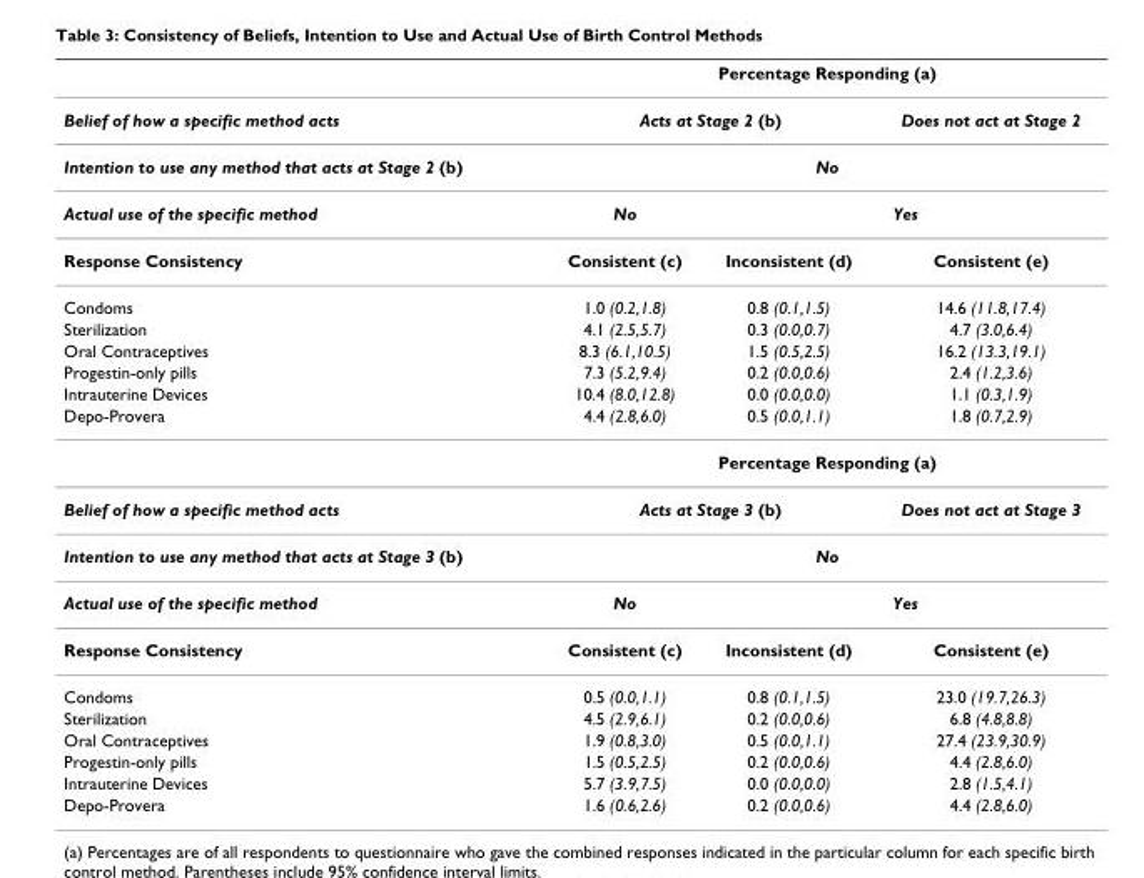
<table><thead><tr><td></td><td colspan="3">Percentage Responding (a)</td></tr></thead><tbody><tr><td>Belief of how a specific method acts</td><td colspan="2">Acts at Stage 2 (b)</td><td>Does not act at Stage 2</td></tr><tr><td>Intention to use any method that acts at Stage 2 (b)</td><td colspan="3">No</td></tr><tr><td>Actual use of the specific method</td><td>No</td><td colspan="2">Yes</td></tr><tr><td>Response Consistency</td><td>Consistent (c)</td><td>Inconsistent (d)</td><td>Consistent (e)</td></tr><tr><td>Condoms</td><td>1.0 (0.2,1.8)</td><td>0.8 (0.1,1.5)</td><td>14.6 (11.8,17.4)</td></tr><tr><td>Sterilization</td><td>4.1 (2.5,5.7)</td><td>0.3 (0.0,0.7)</td><td>4.7 (3.0,6.4)</td></tr><tr><td>Oral Contraceptives</td><td>8.3 (6.1,10.5)</td><td>1.5 (0.5,2.5)</td><td>16.2 (13.3,19.1)</td></tr><tr><td>Progestin-only pills</td><td>7.3 (5.2,9.4)</td><td>0.2 (0.0,0.6)</td><td>2.4 (1.2,3.6)</td></tr><tr><td>Intrauterine Devices</td><td>10.4 (8.0,12.8)</td><td>0.0 (0.0,0.0)</td><td>1.1 (0.3,1.9)</td></tr><tr><td rowspan="2">Depo-Provera</td><td>4.4 (2.8,6.0)</td><td>0.5 (0.0,1.1)</td><td>1.8 (0.7,2.9)</td></tr><tr><td colspan="3">Percentage Responding (a)</td></tr><tr><td>Belief of how a specific method acts</td><td colspan="2">Acts at Stage 3 (b)</td><td>Does not act at Stage 3</td></tr><tr><td>Intention to use any method that acts at Stage 3 (b)</td><td colspan="3">No</td></tr><tr><td>Actual use of the specific method</td><td>No</td><td colspan="2">Yes</td></tr><tr><td>Response Consistency</td><td>Consistent (c)</td><td>Inconsistent (d)</td><td>Consistent (e)</td></tr><tr><td>Condoms</td><td>0.5 (0.0,1.1)</td><td>0.8 (0.1,1.5)</td><td>23.0 (19.7,26.3)</td></tr><tr><td>Sterilization</td><td>4.5 (2.9,6.1)</td><td>0.2 (0.0,0.6)</td><td>6.8 (4.8,8.8)</td></tr><tr><td>Oral Contraceptives</td><td>1.9 (0.8,3.0)</td><td>0.5 (0.0,1.1)</td><td>27.4 (23.9,30.9)</td></tr><tr><td>Progestin-only pills</td><td>1.5 (0.5,2.5)</td><td>0.2 (0.0,0.6)</td><td>4.4 (2.8,6.0)</td></tr><tr><td>Intrauterine Devices</td><td>5.7 (3.9,7.5)</td><td>0.0 (0.0,0.0)</td><td>2.8 (1.5,4.1)</td></tr><tr><td>Depo-Provera</td><td>1.6 (0.6,2.6)</td><td>0.2 (0.0,0.6)</td><td>4.4 (2.8,6.0)</td></tr></tbody></table>